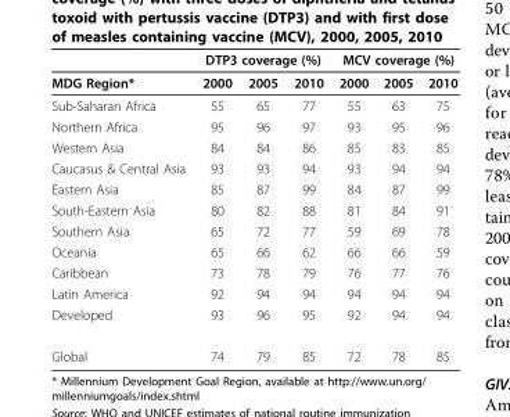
<table><thead><tr><td rowspan="2">MDG Region*</td><td colspan="3">DTP3 coverage (%)</td><td colspan="3">MCV coverage (%)</td></tr><tr><td>2000</td><td>2005</td><td>2010</td><td>2000</td><td>2005</td><td>2010</td></tr></thead><tbody><tr><td>Sub-Saharan Africa</td><td>55</td><td>65</td><td>77</td><td>55</td><td>63</td><td>75</td></tr><tr><td>Northern Africa</td><td>95</td><td>96</td><td>97</td><td>93</td><td>95</td><td>96</td></tr><tr><td>Western Asia</td><td>84</td><td>84</td><td>86</td><td>85</td><td>83</td><td>85</td></tr><tr><td>Caucasus &amp; Central Asia</td><td>93</td><td>93</td><td>94</td><td>93</td><td>94</td><td>94</td></tr><tr><td>Eastern Asia</td><td>85</td><td>87</td><td>99</td><td>84</td><td>87</td><td>99</td></tr><tr><td>South-Eastern Asia</td><td>80</td><td>82</td><td>88</td><td>81</td><td>84</td><td>91</td></tr><tr><td>Southern Asia</td><td>65</td><td>72</td><td>77</td><td>59</td><td>69</td><td>78</td></tr><tr><td>Oceania</td><td>65</td><td>66</td><td>62</td><td>66</td><td>66</td><td>59</td></tr><tr><td>Caribbean</td><td>73</td><td>78</td><td>79</td><td>76</td><td>77</td><td>76</td></tr><tr><td>Latin America</td><td>92</td><td>94</td><td>94</td><td>94</td><td>94</td><td>94</td></tr><tr><td>Developed</td><td>93</td><td>96</td><td>95</td><td>92</td><td>94</td><td>94</td></tr><tr><td>Global</td><td>74</td><td>79</td><td>85</td><td>72</td><td>78</td><td>85</td></tr></tbody></table>